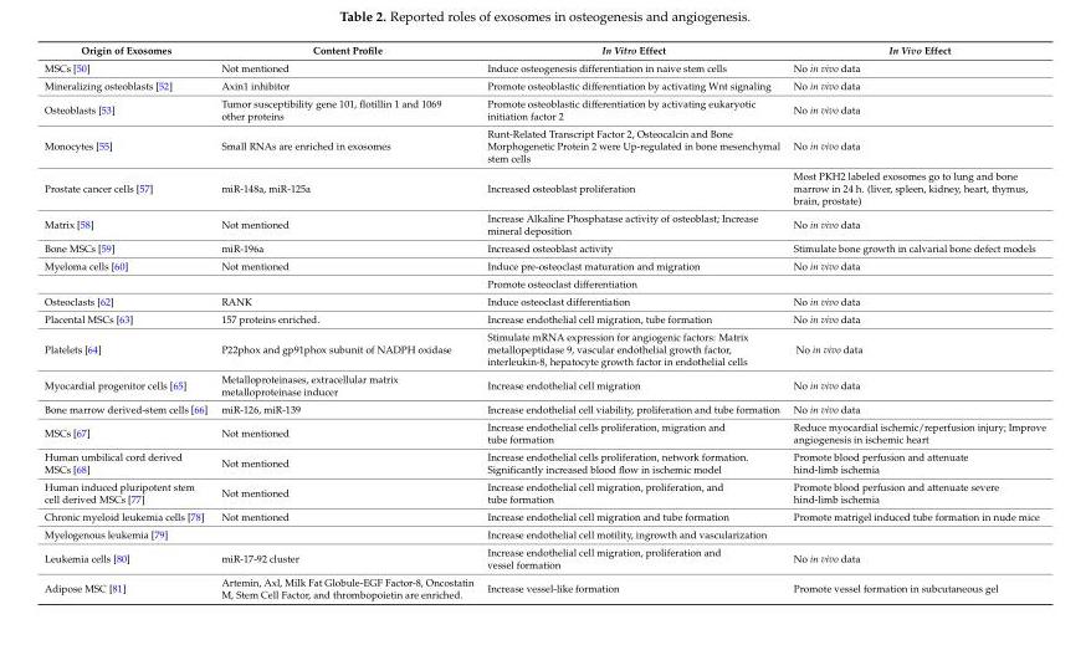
<table><thead><tr><td>Origin of Exosomes</td><td>Content Profile</td><td>In Vitro Effect</td><td>In Vivo Effect</td></tr></thead><tbody><tr><td>MSCs [50]</td><td>Not mentioned</td><td>Induce osteogenesis differentiation in naive stem cells</td><td>No in vivo data</td></tr><tr><td>Mineralizing osteoblasts [52]</td><td>Axin1 inhibitor</td><td>Promote osteoblastic differentiation by activating Wnt signaling</td><td>No in vivo data</td></tr><tr><td>Osteoblasts [53]</td><td>Tumor susceptibility gene 101, flotillin 1 and 1069 other proteins</td><td>Promote osteoblastic differentiation by activating eukaryotic initiation factor 2</td><td>No in vivo data</td></tr><tr><td>Monocytes [55]</td><td>Small RNAs are enriched in exosomes</td><td>Runt-Related Transcript Factor 2, Osteocalcin and Bone Morphogenetic Protein 2 were Up-regulated in bone mesenchymal stem cells</td><td>No in vivo data</td></tr><tr><td>Prostate cancer cells [57]</td><td>miR-148a, miR-125a</td><td>Increased osteoblast proliferation</td><td>Most PKH2 labeled exosomes go to lung and bone marrow in 24 h. (liver, spleen, kidney, heart, thymus, brain, prostate)</td></tr><tr><td>Matrix [58]</td><td>Not mentioned</td><td>Increase Alkaline Phosphatase activity of osteoblast; Increase mineral deposition</td><td>No in vivo data</td></tr><tr><td>Bone MSCs [59]</td><td>miR-196a</td><td>Increased osteoblast activity</td><td>Stimulate bone growth in calvarial bone defect models</td></tr><tr><td rowspan="2">Myeloma cells [60]</td><td>Not mentioned</td><td>Induce pre-osteoclast maturation and migration</td><td>No in vivo data</td></tr><tr><td></td><td>Promote osteoclast differentiation</td><td></td></tr><tr><td>Osteoclasts [62]</td><td>RANK</td><td>Induce osteoclast differentiation</td><td>No in vivo data</td></tr><tr><td>Placental MSCs [63]</td><td>157 proteins enriched.</td><td>Increase endothelial cell migration, tube formation</td><td>No in vivo data</td></tr><tr><td>Platelets [64]</td><td>P22phox and gp91phox subunit of NADPH oxidase</td><td>Stimulate mRNA expression for angiogenic factors: Matrix metallopeptidase 9, vascular endothelial growth factor, interleukin-8, hepatocyte growth factor in endothelial cells</td><td>No in vivo data</td></tr><tr><td>Myocardial progenitor cells [65]</td><td>Metalloproteinases, extracellular matrix metalloproteinase inducer</td><td>Increase endothelial cell migration</td><td>No in vivo data</td></tr><tr><td>Bone marrow derived-stem cells [66]</td><td>miR-126, miR-139</td><td>Increase endothelial cell viability, proliferation and tube formation</td><td>No in vivo data</td></tr><tr><td>MSCs [67]</td><td>Not mentioned</td><td>Increase endothelial cells proliferation, migration and tube formation</td><td>Reduce myocardial ischemic/reperfusion injury; Improve angiogenesis in ischemic heart</td></tr><tr><td>Human umbilical cord derived MSCs [68]</td><td>Not mentioned</td><td>Increase endothelial cells proliferation, network formation. Significantly increased blood flow in ischemic model</td><td>Promote blood perfusion and attenuate hind-limb ischemia</td></tr><tr><td>Human induced pluripotent stem cell derived MSCs [77]</td><td>Not mentioned</td><td>Increase endothelial cell migration, proliferation, and tube formation</td><td>Promote blood perfusion and attenuate severe hind-limb ischemia</td></tr><tr><td>Chronic myeloid leukemia cells [78]</td><td>Not mentioned</td><td>Increase endothelial cell migration and tube formation</td><td>Promote matrigel induced tube formation in nude mice</td></tr><tr><td>Myelogenous leukemia [79]</td><td></td><td>Increase endothelial cell motility, ingrowth and vascularization</td><td></td></tr><tr><td>Leukemia cells [80]</td><td>miR-17-92 cluster</td><td>Increase endothelial cell migration, proliferation and vessel formation</td><td>No in vivo data</td></tr><tr><td>Adipose MSC [81]</td><td>Artemin, Axl, Milk Fat Globule-EGF Factor-8, Oncostatin M, Stem Cell Factor, and thrombopoietin are enriched.</td><td>Increase vessel-like formation</td><td>Promote vessel formation in subcutaneous gel</td></tr></tbody></table>